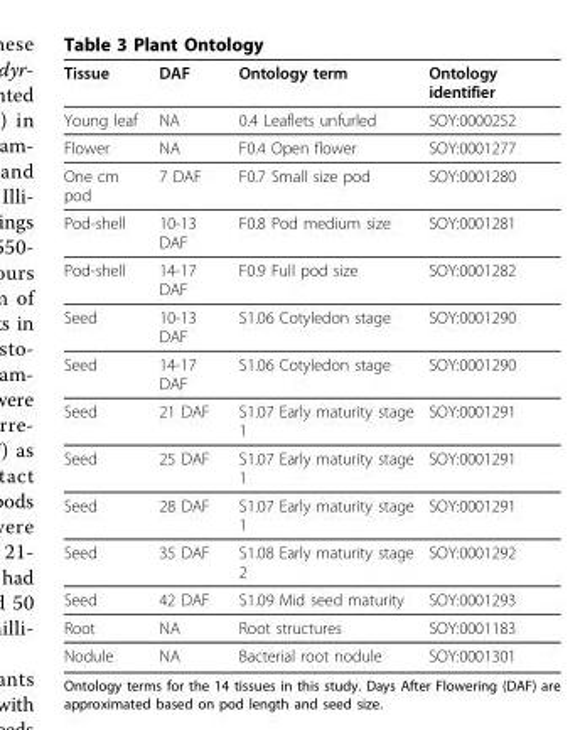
<table><thead><tr><td>Tissue</td><td>DAF</td><td>Ontology term</td><td>Ontology identifier</td></tr></thead><tbody><tr><td>Young leaf</td><td>NA</td><td>0.4 Leaflets unfurled</td><td>SOY:0000252</td></tr><tr><td>Flower</td><td>NA</td><td>F0.4 Open flower</td><td>SOY:0001277</td></tr><tr><td>One cm pod</td><td>7 DAF</td><td>F0.7 Small size pod</td><td>SOY:0001280</td></tr><tr><td>Pod-shell</td><td>10-13 DAF</td><td>F0.8 Pod medium size</td><td>SOY:0001281</td></tr><tr><td>Pod-shell</td><td>14-17 DAF</td><td>F0.9 Full pod size</td><td>SOY:0001282</td></tr><tr><td>Seed</td><td>10-13 DAF</td><td>S1.06 Cotyledon stage</td><td>SOY:0001290</td></tr><tr><td>Seed</td><td>14-17 DAF</td><td>S1.06 Cotyledon stage</td><td>SOY:0001290</td></tr><tr><td>Seed</td><td>21 DAF</td><td>S1.07 Early maturity stage 1</td><td>SOY:0001291</td></tr><tr><td>Seed</td><td>25 DAF</td><td>S1.07 Early maturity stage 1</td><td>SOY:0001291</td></tr><tr><td>Seed</td><td>28 DAF</td><td>S1.07 Early maturity stage 1</td><td>SOY:0001291</td></tr><tr><td>Seed</td><td>35 DAF</td><td>S1.08 Early maturity stage 2</td><td>SOY:0001292</td></tr><tr><td>Seed</td><td>42 DAF</td><td>S1.09 Mid seed maturity</td><td>SOY:0001293</td></tr><tr><td>Root</td><td>NA</td><td>Root structures</td><td>SOY:0001183</td></tr><tr><td>Nodule</td><td>NA</td><td>Bacterial root nodule</td><td>SOY:0001301</td></tr></tbody></table>